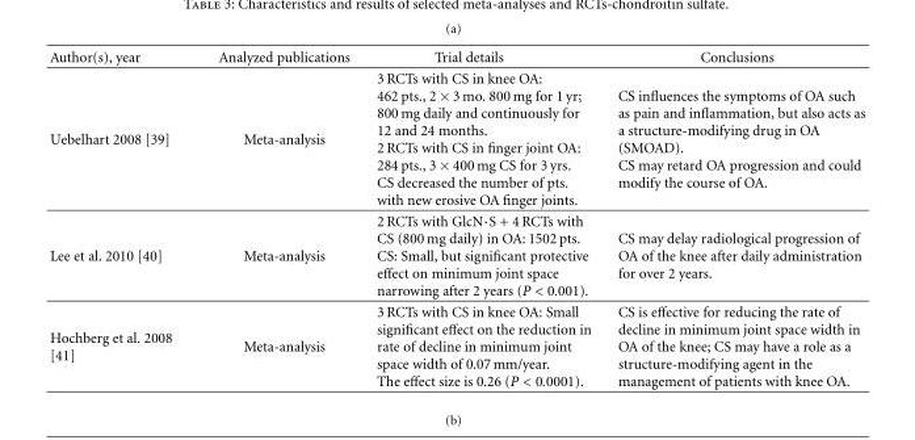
<table><thead><tr><td>Author(s), year</td><td>Analyzed publications</td><td>Trial details</td><td>Conclusions</td></tr></thead><tbody><tr><td>Uebelhart 2008 [39]</td><td>Meta-analysis</td><td>3 RCTs with CS in knee OA: 462 pts., 2 × 3 mo. 800 mg for 1 yr; 800 mg daily and continuously for 12 and 24 months. 2 RCTs with CS in finger joint OA: 284 pts., 3 × 400 mg CS for 3 yrs. CS decreased the number of pts. with new erosive OA finger joints.</td><td>CS influences the symptoms of OA such as pain and inflammation, but also acts as a structure-modifying drug in OA (SMOAD). CS may retard OA progression and could modify the course of OA.</td></tr><tr><td>Lee et al. 2010 [40]</td><td>Meta-analysis</td><td>2 RCTs with GlcN·S + 4 RCTs with CS (800 mg daily) in OA: 1502 pts. CS: Small, but significant protective effect on minimum joint space narrowing after 2 years (P &lt; 0.001).</td><td>CS may delay radiological progression of OA of the knee after daily administration for over 2 years.</td></tr><tr><td>Hochberg et al. 2008 [41]</td><td>Meta-analysis</td><td>3 RCTs with CS in knee OA: Small significant effect on the reduction in rate of decline in minimum joint space width of 0.07 mm/year. The effect size is 0.26 (P &lt; 0.0001).</td><td>CS is effective for reducing the rate of decline in minimum joint space width in OA of the knee; CS may have a role as a structure-modifying agent in the management of patients with knee OA.</td></tr></tbody></table>